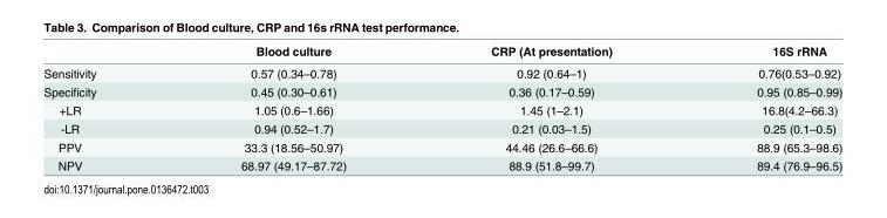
<table><thead><tr><td></td><td>Blood culture</td><td>CRP (At presentation)</td><td>16S rRNA</td></tr></thead><tbody><tr><td>Sensitivity</td><td>0.57 (0.34–0.78)</td><td>0.92 (0.64–1)</td><td>0.76(0.53–0.92)</td></tr><tr><td>Specificity</td><td>0.45 (0.30–0.61)</td><td>0.36 (0.17–0.59)</td><td>0.95 (0.85–0.99)</td></tr><tr><td>+LR</td><td>1.05 (0.6–1.66)</td><td>1.45 (1–2.1)</td><td>16.8(4.2–66.3)</td></tr><tr><td>-LR</td><td>0.94 (0.52–1.7)</td><td>0.21 (0.03–1.5)</td><td>0.25 (0.1–0.5)</td></tr><tr><td>PPV</td><td>33.3 (18.56–50.97)</td><td>44.46 (26.6–66.6)</td><td>88.9 (65.3–98.6)</td></tr><tr><td>NPV</td><td>68.97 (49.17–87.72)</td><td>88.9 (51.8–99.7)</td><td>89.4 (76.9–96.5)</td></tr></tbody></table>